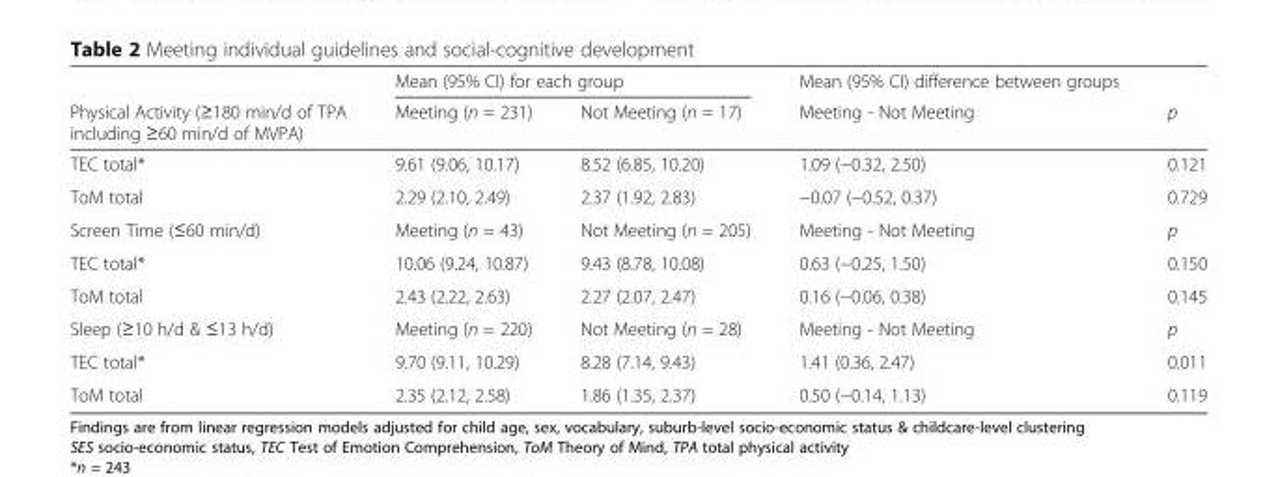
<table><thead><tr><td rowspan="2">Physical Activity (≥180 min/d of TPA including ≥60 min/d of MVPA)</td><td colspan="2">Mean (95% CI) for each group</td><td rowspan="2">Mean (95% CI) difference between groups Meeting - Not Meeting</td><td rowspan="2">p</td></tr><tr><td>Meeting (n = 231)</td><td>Not Meeting (n = 17)</td></tr></thead><tbody><tr><td>TEC total*</td><td>9.61 (9.06, 10.17)</td><td>8.52 (6.85, 10.20)</td><td>1.09 (−0.32, 2.50)</td><td>0.121</td></tr><tr><td>ToM total</td><td>2.29 (2.10, 2.49)</td><td>2.37 (1.92, 2.83)</td><td>−0.07 (−0.52, 0.37)</td><td>0.729</td></tr><tr><td>Screen Time (≤60 min/d)</td><td>Meeting (n = 43)</td><td>Not Meeting (n = 205)</td><td>Meeting - Not Meeting</td><td>p</td></tr><tr><td>TEC total*</td><td>10.06 (9.24, 10.87)</td><td>9.43 (8.78, 10.08)</td><td>0.63 (−0.25, 1.50)</td><td>0.150</td></tr><tr><td>ToM total</td><td>2.43 (2.22, 2.63)</td><td>2.27 (2.07, 2.47)</td><td>0.16 (−0.06, 0.38)</td><td>0.145</td></tr><tr><td>Sleep (≥10 h/d &amp; ≤13 h/d)</td><td>Meeting (n = 220)</td><td>Not Meeting (n = 28)</td><td>Meeting - Not Meeting</td><td>p</td></tr><tr><td>TEC total*</td><td>9.70 (9.11, 10.29)</td><td>8.28 (7.14, 9.43)</td><td>1.41 (0.36, 2.47)</td><td>0.011</td></tr><tr><td>ToM total</td><td>2.35 (2.12, 2.58)</td><td>1.86 (1.35, 2.37)</td><td>0.50 (−0.14, 1.13)</td><td>0.119</td></tr></tbody></table>